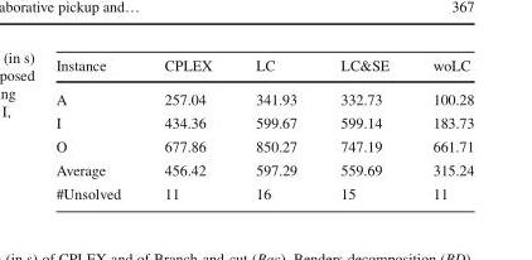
<table><thead><tr><td>Instance</td><td>CPLEX</td><td>LC</td><td>LC&amp;SE</td><td>woLC</td></tr></thead><tbody><tr><td>A</td><td>257.04</td><td>341.93</td><td>332.73</td><td>100.28</td></tr><tr><td>I</td><td>434.36</td><td>599.67</td><td>599.14</td><td>183.73</td></tr><tr><td>O</td><td>677.86</td><td>850.27</td><td>747.19</td><td>661.71</td></tr><tr><td>Average</td><td>456.42</td><td>597.29</td><td>559.69</td><td>315.24</td></tr><tr><td>#Unsolved</td><td>11</td><td>16</td><td>15</td><td>11</td></tr></tbody></table>